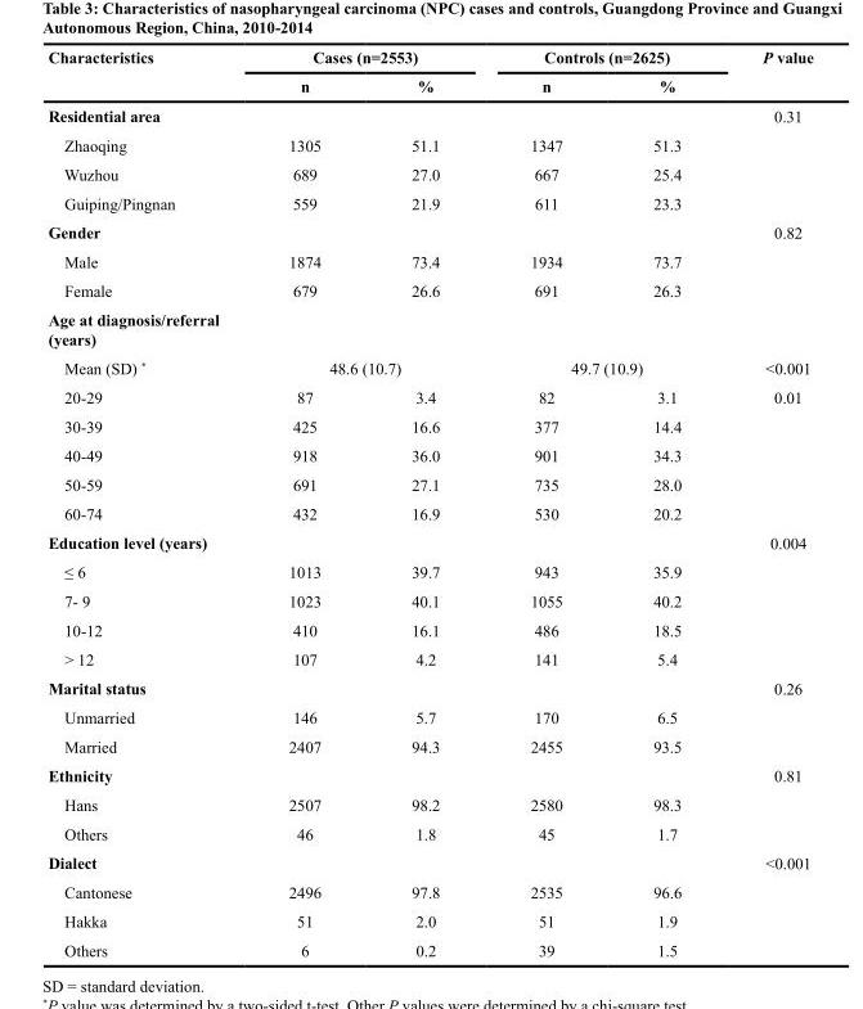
<table><thead><tr><td rowspan="2">Characteristics</td><td colspan="2">Cases (n=2553)</td><td colspan="2">Controls (n=2625)</td><td rowspan="2">P value</td></tr><tr><td>n</td><td>%</td><td>n</td><td>%</td></tr></thead><tbody><tr><td>Residential area</td><td></td><td></td><td></td><td></td><td>0.31</td></tr><tr><td>Zhaoqing</td><td>1305</td><td>51.1</td><td>1347</td><td>51.3</td><td></td></tr><tr><td>Wuzhou</td><td>689</td><td>27.0</td><td>667</td><td>25.4</td><td></td></tr><tr><td>Guiping/Pingnan</td><td>559</td><td>21.9</td><td>611</td><td>23.3</td><td></td></tr><tr><td>Gender</td><td></td><td></td><td></td><td></td><td>0.82</td></tr><tr><td>Male</td><td>1874</td><td>73.4</td><td>1934</td><td>73.7</td><td></td></tr><tr><td>Female</td><td>679</td><td>26.6</td><td>691</td><td>26.3</td><td></td></tr><tr><td colspan="6">Age at diagnosis/referral (years)</td></tr><tr><td>Mean (SD) *</td><td colspan="2">48.6 (10.7)</td><td colspan="2">49.7 (10.9)</td><td>&lt;0.001</td></tr><tr><td>20-29</td><td>87</td><td>3.4</td><td>82</td><td>3.1</td><td>0.01</td></tr><tr><td>30-39</td><td>425</td><td>16.6</td><td>377</td><td>14.4</td><td></td></tr><tr><td>40-49</td><td>918</td><td>36.0</td><td>901</td><td>34.3</td><td></td></tr><tr><td>50-59</td><td>691</td><td>27.1</td><td>735</td><td>28.0</td><td></td></tr><tr><td>60-74</td><td>432</td><td>16.9</td><td>530</td><td>20.2</td><td></td></tr><tr><td>Education level (years)</td><td></td><td></td><td></td><td></td><td>0.004</td></tr><tr><td>≤ 6</td><td>1013</td><td>39.7</td><td>943</td><td>35.9</td><td></td></tr><tr><td>7- 9</td><td>1023</td><td>40.1</td><td>1055</td><td>40.2</td><td></td></tr><tr><td>10-12</td><td>410</td><td>16.1</td><td>486</td><td>18.5</td><td></td></tr><tr><td>&gt; 12</td><td>107</td><td>4.2</td><td>141</td><td>5.4</td><td></td></tr><tr><td>Marital status</td><td></td><td></td><td></td><td></td><td>0.26</td></tr><tr><td>Unmarried</td><td>146</td><td>5.7</td><td>170</td><td>6.5</td><td></td></tr><tr><td>Married</td><td>2407</td><td>94.3</td><td>2455</td><td>93.5</td><td></td></tr><tr><td>Ethnicity</td><td></td><td></td><td></td><td></td><td>0.81</td></tr><tr><td>Hans</td><td>2507</td><td>98.2</td><td>2580</td><td>98.3</td><td></td></tr><tr><td>Others</td><td>46</td><td>1.8</td><td>45</td><td>1.7</td><td></td></tr><tr><td>Dialect</td><td></td><td></td><td></td><td></td><td>&lt;0.001</td></tr><tr><td>Cantonese</td><td>2496</td><td>97.8</td><td>2535</td><td>96.6</td><td></td></tr><tr><td>Hakka</td><td>51</td><td>2.0</td><td>51</td><td>1.9</td><td></td></tr><tr><td>Others</td><td>6</td><td>0.2</td><td>39</td><td>1.5</td><td></td></tr></tbody></table>